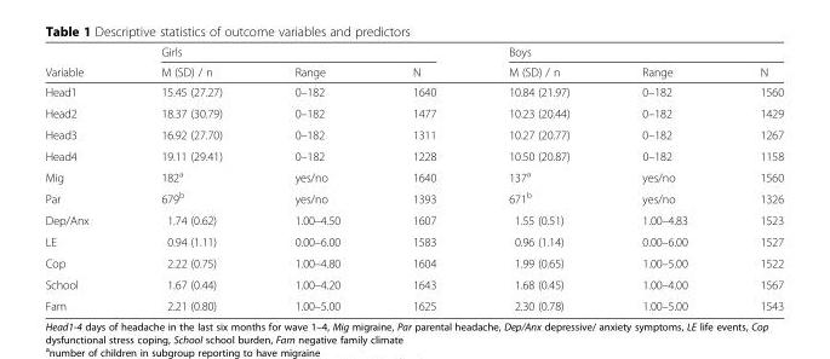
<table><thead><tr><td rowspan="2">Variable</td><td colspan="3">Girls</td><td colspan="3">Boys</td></tr><tr><td>M (SD) / n</td><td>Range</td><td>N</td><td>M (SD) / n</td><td>Range</td><td>N</td></tr></thead><tbody><tr><td>Head1</td><td>15.45 (27.27)</td><td>0–182</td><td>1640</td><td>10.84 (21.97)</td><td>0–182</td><td>1560</td></tr><tr><td>Head2</td><td>18.37 (30.79)</td><td>0–182</td><td>1477</td><td>10.23 (20.44)</td><td>0–182</td><td>1429</td></tr><tr><td>Head3</td><td>16.92 (27.70)</td><td>0–182</td><td>1311</td><td>10.27 (20.77)</td><td>0–182</td><td>1267</td></tr><tr><td>Head4</td><td>19.11 (29.41)</td><td>0–182</td><td>1228</td><td>10.50 (20.87)</td><td>0–182</td><td>1158</td></tr><tr><td>Mig</td><td>182<sup>a</sup></td><td>yes/no</td><td>1640</td><td>137<sup>a</sup></td><td>yes/no</td><td>1560</td></tr><tr><td>Par</td><td>679<sup>b</sup></td><td>yes/no</td><td>1393</td><td>671<sup>b</sup></td><td>yes/no</td><td>1326</td></tr><tr><td>Dep/Anx</td><td>1.74 (0.62)</td><td>1.00–4.50</td><td>1607</td><td>1.55 (0.51)</td><td>1.00–4.83</td><td>1523</td></tr><tr><td>LE</td><td>0.94 (1.11)</td><td>0.00–6.00</td><td>1583</td><td>0.96 (1.14)</td><td>0.00–6.00</td><td>1527</td></tr><tr><td>Cop</td><td>2.22 (0.75)</td><td>1.00–4.80</td><td>1604</td><td>1.99 (0.65)</td><td>1.00–5.00</td><td>1522</td></tr><tr><td>School</td><td>1.67 (0.44)</td><td>1.00–4.20</td><td>1643</td><td>1.68 (0.45)</td><td>1.00–4.00</td><td>1567</td></tr><tr><td>Fam</td><td>2.21 (0.80)</td><td>1.00–5.00</td><td>1625</td><td>2.30 (0.78)</td><td>1.00–5.00</td><td>1543</td></tr></tbody></table>